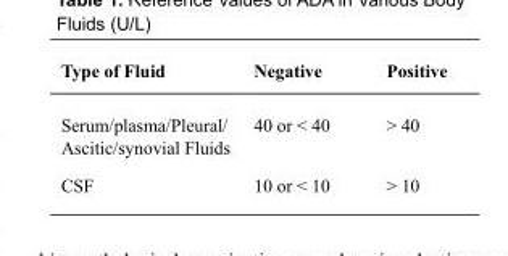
<table><thead><tr><td>Type of Fluid</td><td>Negative</td><td>Positive</td></tr></thead><tbody><tr><td>Serum/plasma/Pleural/ Ascitic/synovial Fluids</td><td>40 or &lt; 40</td><td>&gt; 40</td></tr><tr><td>CSF</td><td>10 or &lt; 10</td><td>&gt; 10</td></tr></tbody></table>